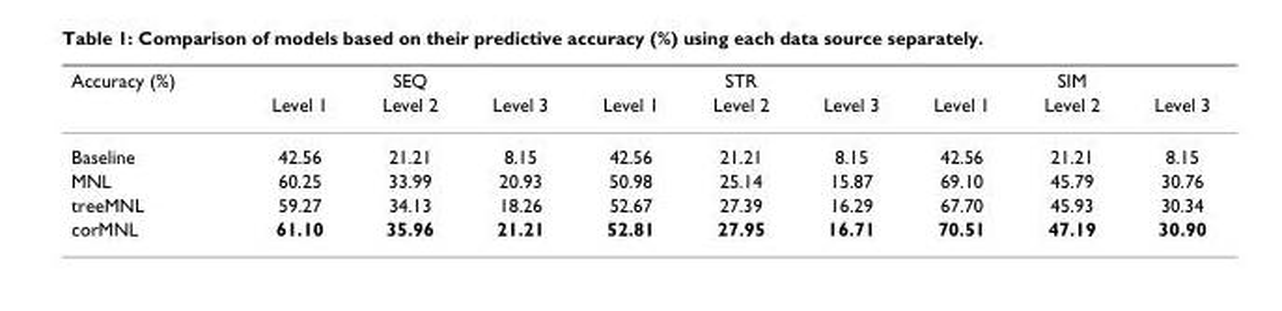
<table><thead><tr><td rowspan="2">Accuracy (%)</td><td colspan="3">SEQ</td><td colspan="3">STR</td><td colspan="3">SIM</td></tr><tr><td>Level 1</td><td>Level 2</td><td>Level 3</td><td>Level 1</td><td>Level 2</td><td>Level 3</td><td>Level 1</td><td>Level 2</td><td>Level 3</td></tr></thead><tbody><tr><td>Baseline</td><td>42.56</td><td>21.21</td><td>8.15</td><td>42.56</td><td>21.21</td><td>8.15</td><td>42.56</td><td>21.21</td><td>8.15</td></tr><tr><td>MNL</td><td>60.25</td><td>33.99</td><td>20.93</td><td>50.98</td><td>25.14</td><td>15.87</td><td>69.10</td><td>45.79</td><td>30.76</td></tr><tr><td>treeMNL</td><td>59.27</td><td>34.13</td><td>18.26</td><td>52.67</td><td>27.39</td><td>16.29</td><td>67.70</td><td>45.93</td><td>30.34</td></tr><tr><td>corMNL</td><td>61.10</td><td>35.96</td><td>21.21</td><td>52.81</td><td>27.95</td><td>16.71</td><td>70.51</td><td>47.19</td><td>30.90</td></tr></tbody></table>